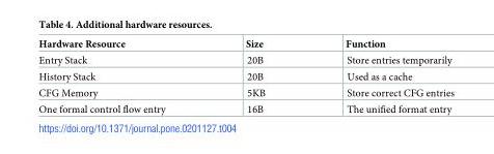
<table><thead><tr><td>Hardware Resource</td><td>Size</td><td>Function</td></tr></thead><tbody><tr><td>Entry Stack</td><td>20B</td><td>Store entries temporarily</td></tr><tr><td>History Stack</td><td>20B</td><td>Used as a cache</td></tr><tr><td>CFG Memory</td><td>5KB</td><td>Store correct CFG entries</td></tr><tr><td>One formal control flow entry</td><td>16B</td><td>The unified format entry</td></tr></tbody></table>